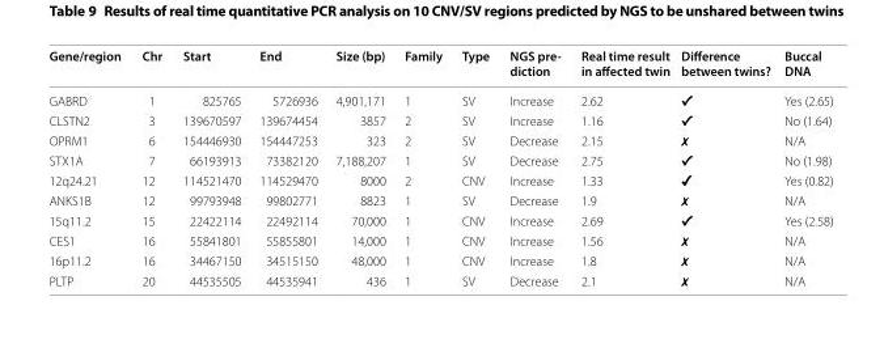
<table><thead><tr><td>Gene/region</td><td>Chr</td><td>Start</td><td>End</td><td>Size (bp)</td><td>Family</td><td>Type</td><td>NGS pre- diction</td><td>Real time result in affected twin</td><td>Difference between twins?</td><td>Buccal DNA</td></tr></thead><tbody><tr><td>GABRD</td><td>1</td><td>825765</td><td>5726936</td><td>4,901,171</td><td>1</td><td>SV</td><td>Increase</td><td>2.62</td><td>✔</td><td>Yes (2.65)</td></tr><tr><td>CLSTN2</td><td>3</td><td>139670597</td><td>139674454</td><td>3857</td><td>2</td><td>SV</td><td>Increase</td><td>1.16</td><td>✔</td><td>No (1.64)</td></tr><tr><td>OPRM1</td><td>6</td><td>154446930</td><td>154447253</td><td>323</td><td>2</td><td>SV</td><td>Decrease</td><td>2.15</td><td>✗</td><td>N/A</td></tr><tr><td>STX1A</td><td>7</td><td>66193913</td><td>73382120</td><td>7,188,207</td><td>1</td><td>SV</td><td>Decrease</td><td>2.75</td><td>✔</td><td>No (1.98)</td></tr><tr><td>12q24.21</td><td>12</td><td>114521470</td><td>114529470</td><td>8000</td><td>2</td><td>CNV</td><td>Increase</td><td>1.33</td><td>✔</td><td>Yes (0.82)</td></tr><tr><td>ANKS1B</td><td>12</td><td>99793948</td><td>99802771</td><td>8823</td><td>1</td><td>SV</td><td>Decrease</td><td>1.9</td><td>✗</td><td>N/A</td></tr><tr><td>15q11.2</td><td>15</td><td>22422114</td><td>22492114</td><td>70,000</td><td>1</td><td>CNV</td><td>Increase</td><td>2.69</td><td>✔</td><td>Yes (2.58)</td></tr><tr><td>CES1</td><td>16</td><td>55841801</td><td>55855801</td><td>14,000</td><td>1</td><td>CNV</td><td>Increase</td><td>1.56</td><td>✗</td><td>N/A</td></tr><tr><td>16p11.2</td><td>16</td><td>34467150</td><td>34515150</td><td>48,000</td><td>1</td><td>CNV</td><td>Increase</td><td>1.8</td><td>✗</td><td>N/A</td></tr><tr><td>PLTP</td><td>20</td><td>44535505</td><td>44535941</td><td>436</td><td>1</td><td>SV</td><td>Decrease</td><td>2.1</td><td>✗</td><td>N/A</td></tr></tbody></table>